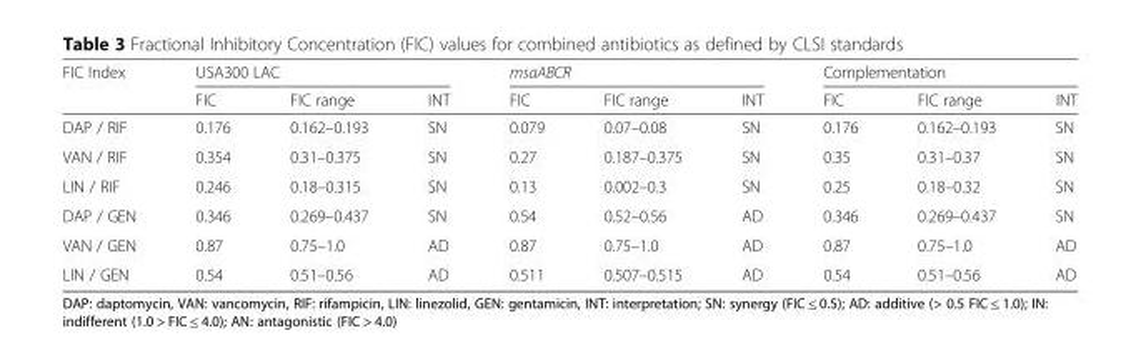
<table><thead><tr><td rowspan="2">FIC Index</td><td colspan="3">USA300 LAC</td><td colspan="3">msaABCR</td><td colspan="3">Complementation</td></tr><tr><td>FIC</td><td>FIC range</td><td>INT</td><td>FIC</td><td>FIC range</td><td>INT</td><td>FIC</td><td>FIC range</td><td>INT</td></tr></thead><tbody><tr><td>DAP / RIF</td><td>0.176</td><td>0.162–0.193</td><td>SN</td><td>0.079</td><td>0.07–0.08</td><td>SN</td><td>0.176</td><td>0.162–0.193</td><td>SN</td></tr><tr><td>VAN / RIF</td><td>0.354</td><td>0.31–0.375</td><td>SN</td><td>0.27</td><td>0.187–0.375</td><td>SN</td><td>0.35</td><td>0.31–0.37</td><td>SN</td></tr><tr><td>LIN / RIF</td><td>0.246</td><td>0.18–0.315</td><td>SN</td><td>0.13</td><td>0.002–0.3</td><td>SN</td><td>0.25</td><td>0.18–0.32</td><td>SN</td></tr><tr><td>DAP / GEN</td><td>0.346</td><td>0.269–0.437</td><td>SN</td><td>0.54</td><td>0.52–0.56</td><td>AD</td><td>0.346</td><td>0.269–0.437</td><td>SN</td></tr><tr><td>VAN / GEN</td><td>0.87</td><td>0.75–1.0</td><td>AD</td><td>0.87</td><td>0.75–1.0</td><td>AD</td><td>0.87</td><td>0.75–1.0</td><td>AD</td></tr><tr><td>LIN / GEN</td><td>0.54</td><td>0.51–0.56</td><td>AD</td><td>0.511</td><td>0.507–0.515</td><td>AD</td><td>0.54</td><td>0.51–0.56</td><td>AD</td></tr></tbody></table>